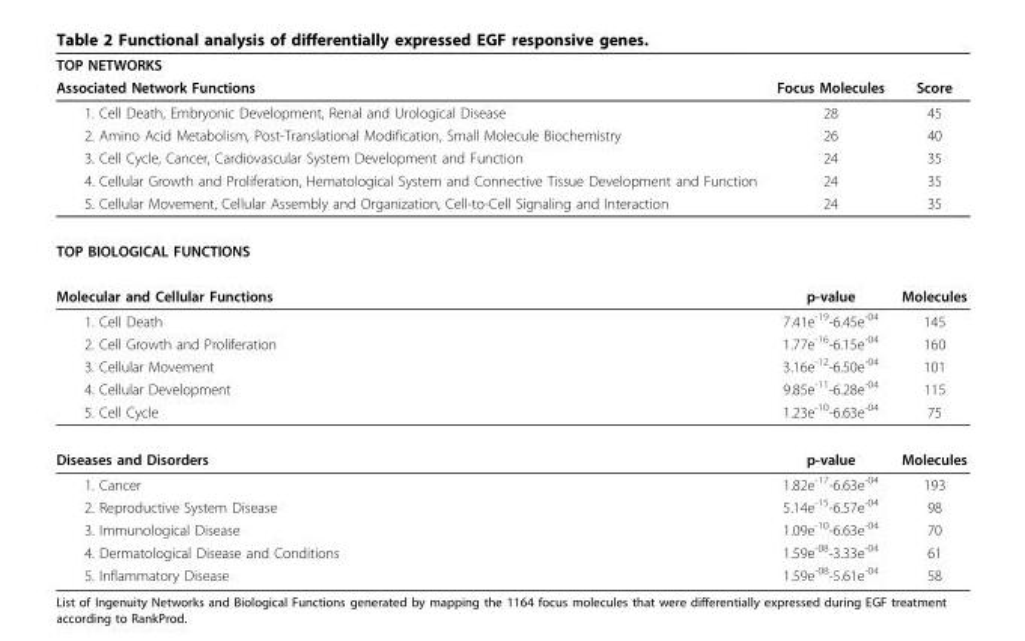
<table><thead><tr><td colspan="3">TOP NETWORKS</td></tr><tr><td>Associated Network Functions</td><td>Focus Molecules</td><td>Score</td></tr></thead><tbody><tr><td>1. Cell Death, Embryonic Development, Renal and Urological Disease</td><td>28</td><td>45</td></tr><tr><td>2. Amino Acid Metabolism, Post-Translational Modification, Small Molecule Biochemistry</td><td>26</td><td>40</td></tr><tr><td>3. Cell Cycle, Cancer, Cardiovascular System Development and Function</td><td>24</td><td>35</td></tr><tr><td>4. Cellular Growth and Proliferation, Hematological System and Connective Tissue Development and Function</td><td>24</td><td>35</td></tr><tr><td>5. Cellular Movement, Cellular Assembly and Organization, Cell-to-Cell Signaling and Interaction</td><td>24</td><td>35</td></tr><tr><td colspan="3">TOP BIOLOGICAL FUNCTIONS</td></tr><tr><td>Molecular and Cellular Functions</td><td>p-value</td><td>Molecules</td></tr><tr><td>1. Cell Death</td><td>7.41e<sup>-19</sup>-6.45e<sup>-04</sup></td><td>145</td></tr><tr><td>2. Cell Growth and Proliferation</td><td>1.77e<sup>-16</sup>-6.15e<sup>-04</sup></td><td>160</td></tr><tr><td>3. Cellular Movement</td><td>3.16e<sup>-12</sup>-6.50e<sup>-04</sup></td><td>101</td></tr><tr><td>4. Cellular Development</td><td>9.85e<sup>-11</sup>-6.28e<sup>-04</sup></td><td>115</td></tr><tr><td>5. Cell Cycle</td><td>1.23e<sup>-10</sup>-6.63e<sup>-04</sup></td><td>75</td></tr><tr><td>Diseases and Disorders</td><td>p-value</td><td>Molecules</td></tr><tr><td>1. Cancer</td><td>1.82e<sup>-17</sup>-6.63e<sup>-04</sup></td><td>193</td></tr><tr><td>2. Reproductive System Disease</td><td>5.14e<sup>-15</sup>-6.57e<sup>-04</sup></td><td>98</td></tr><tr><td>3. Immunological Disease</td><td>1.09e<sup>-10</sup>-6.63e<sup>-04</sup></td><td>70</td></tr><tr><td>4. Dermatological Disease and Conditions</td><td>1.59e<sup>-08</sup>-3.33e<sup>-04</sup></td><td>61</td></tr><tr><td>5. Inflammatory Disease</td><td>1.59e<sup>-08</sup>-5.61e<sup>-04</sup></td><td>58</td></tr></tbody></table>